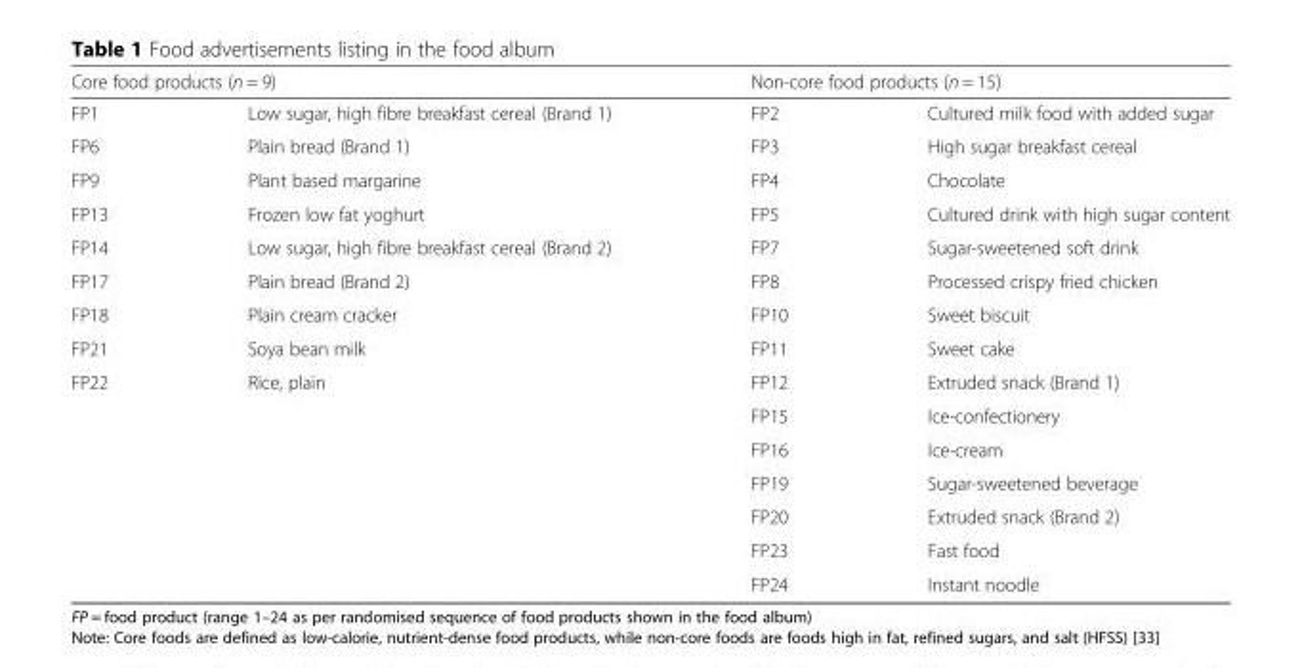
<table><thead><tr><td colspan="2">Core food products (n = 9)</td><td colspan="2">Non-core food products (n = 15)</td></tr><tr><td>FP1</td><td>Low sugar, high fibre breakfast cereal (Brand 1)</td><td>FP2</td><td>Cultured milk food with added sugar</td></tr></thead><tbody><tr><td>FP6</td><td>Plain bread (Brand 1)</td><td>FP3</td><td>High sugar breakfast cereal</td></tr><tr><td>FP9</td><td>Plant based margarine</td><td>FP4</td><td>Chocolate</td></tr><tr><td>FP13</td><td>Frozen low fat yoghurt</td><td>FP5</td><td>Cultured drink with high sugar content</td></tr><tr><td>FP14</td><td>Low sugar, high fibre breakfast cereal (Brand 2)</td><td>FP7</td><td>Sugar-sweetened soft drink</td></tr><tr><td>FP17</td><td>Plain bread (Brand 2)</td><td>FP8</td><td>Processed crispy fried chicken</td></tr><tr><td>FP18</td><td>Plain cream cracker</td><td>FP10</td><td>Sweet biscuit</td></tr><tr><td>FP21</td><td>Soya bean milk</td><td>FP11</td><td>Sweet cake</td></tr><tr><td rowspan="7">FP22</td><td>Rice, plain</td><td>FP12</td><td>Extruded snack (Brand 1)</td></tr><tr><td></td><td>FP15</td><td>Ice-confectionery</td></tr><tr><td></td><td>FP16</td><td>Ice-cream</td></tr><tr><td></td><td>FP19</td><td>Sugar-sweetened beverage</td></tr><tr><td></td><td>FP20</td><td>Extruded snack (Brand 2)</td></tr><tr><td></td><td>FP23</td><td>Fast food</td></tr><tr><td></td><td>FP24</td><td>Instant noodle</td></tr></tbody></table>